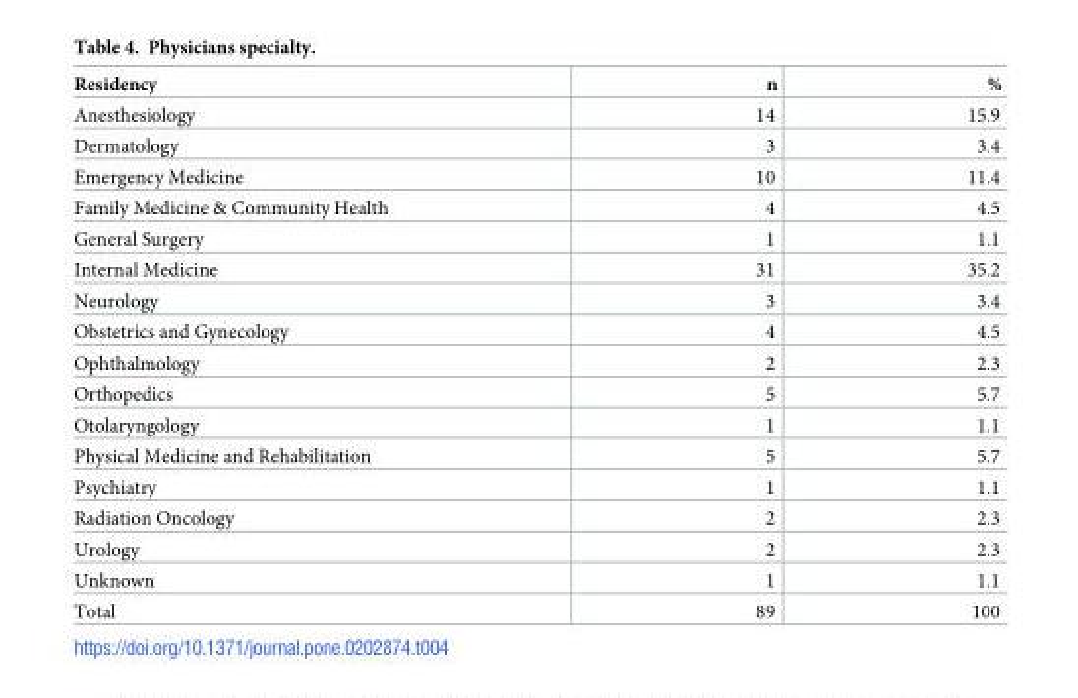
<table><thead><tr><td>Residency</td><td>n</td><td>%</td></tr></thead><tbody><tr><td>Anesthesiology</td><td>14</td><td>15.9</td></tr><tr><td>Dermatology</td><td>3</td><td>3.4</td></tr><tr><td>Emergency Medicine</td><td>10</td><td>11.4</td></tr><tr><td>Family Medicine &amp; Community Health</td><td>4</td><td>4.5</td></tr><tr><td>General Surgery</td><td>1</td><td>1.1</td></tr><tr><td>Internal Medicine</td><td>31</td><td>35.2</td></tr><tr><td>Neurology</td><td>3</td><td>3.4</td></tr><tr><td>Obstetrics and Gynecology</td><td>4</td><td>4.5</td></tr><tr><td>Ophthalmology</td><td>2</td><td>2.3</td></tr><tr><td>Orthopedics</td><td>5</td><td>5.7</td></tr><tr><td>Otolaryngology</td><td>1</td><td>1.1</td></tr><tr><td>Physical Medicine and Rehabilitation</td><td>5</td><td>5.7</td></tr><tr><td>Psychiatry</td><td>1</td><td>1.1</td></tr><tr><td>Radiation Oncology</td><td>2</td><td>2.3</td></tr><tr><td>Urology</td><td>2</td><td>2.3</td></tr><tr><td>Unknown</td><td>1</td><td>1.1</td></tr><tr><td>Total</td><td>89</td><td>100</td></tr></tbody></table>